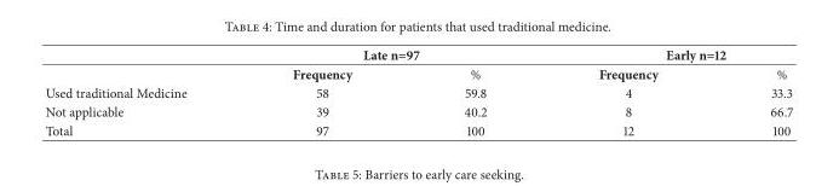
<table><thead><tr><td rowspan="2"></td><td colspan="2">Late n=97</td><td colspan="2">Early n=12</td></tr><tr><td>Frequency</td><td>%</td><td>Frequency</td><td>%</td></tr></thead><tbody><tr><td>Used traditional Medicine</td><td>58</td><td>59.8</td><td>4</td><td>33.3</td></tr><tr><td>Not applicable</td><td>39</td><td>40.2</td><td>8</td><td>66.7</td></tr><tr><td>Total</td><td>97</td><td>100</td><td>12</td><td>100</td></tr></tbody></table>